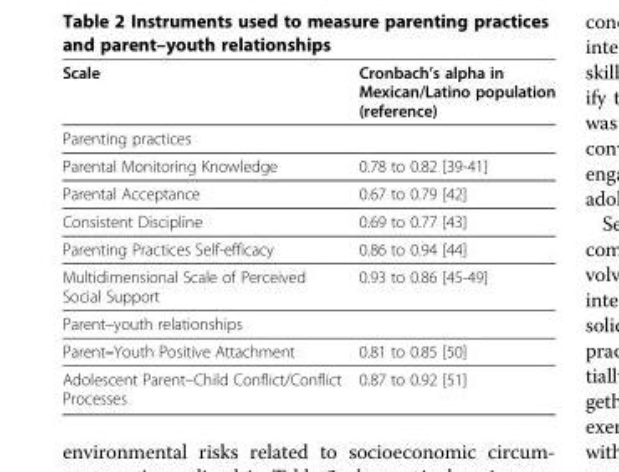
<table><thead><tr><td>Scale</td><td>Cronbach’s alpha in Mexican/Latino population (reference)</td></tr></thead><tbody><tr><td colspan="2">Parenting practices</td></tr><tr><td>Parental Monitoring Knowledge</td><td>0.78 to 0.82 [39-41]</td></tr><tr><td>Parental Acceptance</td><td>0.67 to 0.79 [42]</td></tr><tr><td>Consistent Discipline</td><td>0.69 to 0.77 [43]</td></tr><tr><td>Parenting Practices Self-efficacy</td><td>0.86 to 0.94 [44]</td></tr><tr><td>Multidimensional Scale of Perceived Social Support</td><td>0.93 to 0.86 [45-49]</td></tr><tr><td colspan="2">Parent–youth relationships</td></tr><tr><td>Parent–Youth Positive Attachment</td><td>0.81 to 0.85 [50]</td></tr><tr><td>Adolescent Parent–Child Conflict/Conflict Processes</td><td>0.87 to 0.92 [51]</td></tr></tbody></table>